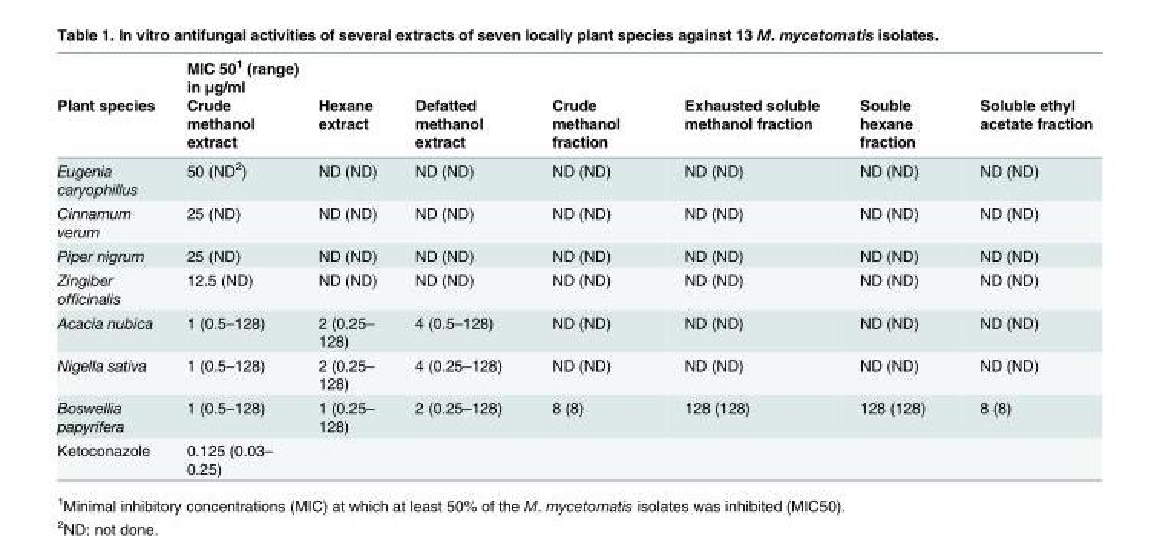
<table><thead><tr><td rowspan="2">Plant species</td><td rowspan="2">MIC 50<sup>1</sup> (range) in μg/ml Crude methanol extract</td><td rowspan="2">Hexane extract</td><td rowspan="2">Defatted methanol extract</td><td rowspan="2">Crude methanol fraction</td><td rowspan="2">Exhausted soluble methanol fraction</td><td rowspan="2">Souble hexane fraction</td><td rowspan="2">Soluble ethyl acetate fraction</td></tr><tr></tr></thead><tbody><tr><td>Eugenia caryophillus</td><td>50 (ND<sup>2</sup>)</td><td>ND (ND)</td><td>ND (ND)</td><td>ND (ND)</td><td>ND (ND)</td><td>ND (ND)</td><td>ND (ND)</td></tr><tr><td>Cinnamum verum</td><td>25 (ND)</td><td>ND (ND)</td><td>ND (ND)</td><td>ND (ND)</td><td>ND (ND)</td><td>ND (ND)</td><td>ND (ND)</td></tr><tr><td>Piper nigrum</td><td>25 (ND)</td><td>ND (ND)</td><td>ND (ND)</td><td>ND (ND)</td><td>ND (ND)</td><td>ND (ND)</td><td>ND (ND)</td></tr><tr><td>Zingiber officinalis</td><td>12.5 (ND)</td><td>ND (ND)</td><td>ND (ND)</td><td>ND (ND)</td><td>ND (ND)</td><td>ND (ND)</td><td>ND (ND)</td></tr><tr><td>Acacia nubica</td><td>1 (0.5–128)</td><td>2 (0.25– 128)</td><td>4 (0.5–128)</td><td>ND (ND)</td><td>ND (ND)</td><td>ND (ND)</td><td>ND (ND)</td></tr><tr><td>Nigella sativa</td><td>1 (0.5–128)</td><td>2 (0.25– 128)</td><td>4 (0.25–128)</td><td>ND (ND)</td><td>ND (ND)</td><td>ND (ND)</td><td>ND (ND)</td></tr><tr><td>Boswellia papyrifera</td><td>1 (0.5–128)</td><td>1 (0.25– 128)</td><td>2 (0.25–128)</td><td>8 (8)</td><td>128 (128)</td><td>128 (128)</td><td>8 (8)</td></tr><tr><td>Ketoconazole</td><td>0.125 (0.03– 0.25)</td><td></td><td></td><td></td><td></td><td></td><td></td></tr></tbody></table>